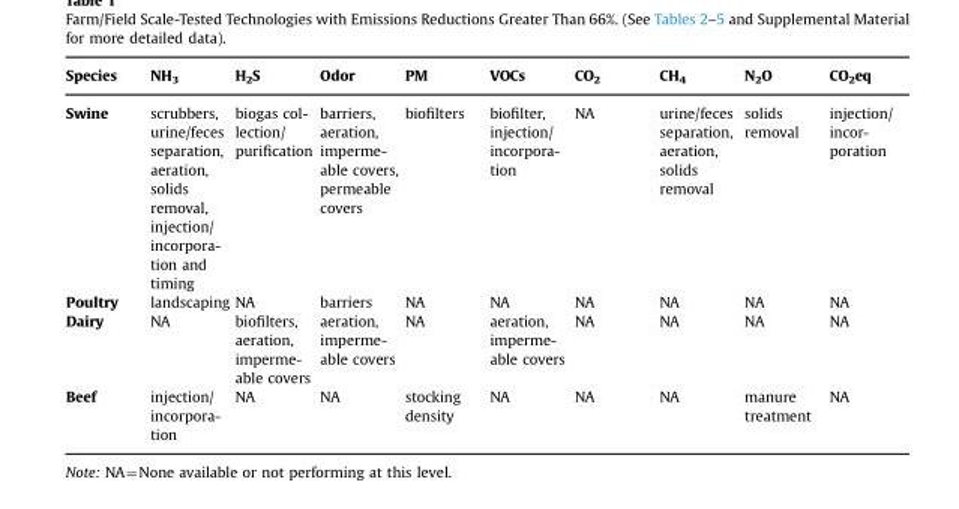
<table><thead><tr><td>Species</td><td>NH<sub>3</sub></td><td>H<sub>2</sub>S</td><td>Odor</td><td>PM</td><td>VOCs</td><td>CO<sub>2</sub></td><td>CH<sub>4</sub></td><td>N<sub>2</sub>O</td><td>CO<sub>2</sub>eq</td></tr></thead><tbody><tr><td>Swine</td><td>scrubbers, urine/feces separation, aeration, solids removal, injection/ incorpora- tion and timing</td><td>biogas col- lection/ purification</td><td>barriers, aeration, imperme- able covers, permeable covers</td><td>biofilters</td><td>biofilter, injection/ incorpora- tion</td><td>NA</td><td>urine/feces separation, aeration, solids removal</td><td>solids removal</td><td>injection/ incor- poration</td></tr><tr><td>Poultry</td><td>landscaping</td><td>NA</td><td>barriers</td><td>NA</td><td>NA</td><td>NA</td><td>NA</td><td>NA</td><td>NA</td></tr><tr><td>Dairy</td><td>NA</td><td>biofilters, aeration, imperme- able covers</td><td>aeration, imperme- able covers</td><td>NA</td><td>aeration, imperme- able covers</td><td>NA</td><td>NA</td><td>NA</td><td>NA</td></tr><tr><td>Beef</td><td>injection/ incorpora- tion</td><td>NA</td><td>NA</td><td>stocking density</td><td>NA</td><td>NA</td><td>NA</td><td>manure treatment</td><td>NA</td></tr></tbody></table>